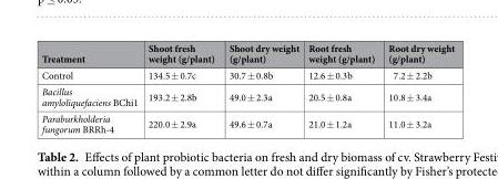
<table><thead><tr><td>Treatment</td><td>Shoot fresh weight (g/plant)</td><td>Shoot dry weight (g/plant)</td><td>Root fresh weight (g/plant)</td><td>Root dry weight (g/plant)</td></tr></thead><tbody><tr><td>Control</td><td>134.5 ± 0.7c</td><td>30.7 ± 0.8b</td><td>12.6 ± 0.3b</td><td>7.2 ± 2.2b</td></tr><tr><td>Bacillus amyloliquefaciens BChi1</td><td>193.2 ± 2.8b</td><td>49.0 ± 2.3a</td><td>20.5 ± 0.8a</td><td>10.8 ± 3.4a</td></tr><tr><td>Paraburkholderia fungorum BRRh-4</td><td>220.0 ± 2.9a</td><td>49.6 ± 0.7a</td><td>21.0 ± 1.2a</td><td>11.0 ± 3.2a</td></tr></tbody></table>